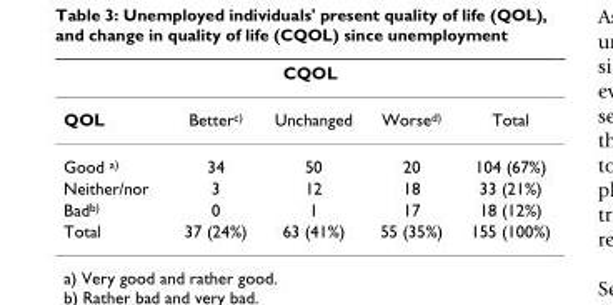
<table><thead><tr><td colspan="5">CQOL</td></tr><tr><td>QOL</td><td>Better<sup>c)</sup></td><td>Unchanged</td><td>Worse<sup>d)</sup></td><td>Total</td></tr></thead><tbody><tr><td>Good <sup>a)</sup></td><td>34</td><td>50</td><td>20</td><td>104 (67%)</td></tr><tr><td>Neither/nor</td><td>3</td><td>12</td><td>18</td><td>33 (21%)</td></tr><tr><td>Bad<sup>b)</sup></td><td>0</td><td>1</td><td>17</td><td>18 (12%)</td></tr><tr><td>Total</td><td>37 (24%)</td><td>63 (41%)</td><td>55 (35%)</td><td>155 (100%)</td></tr></tbody></table>